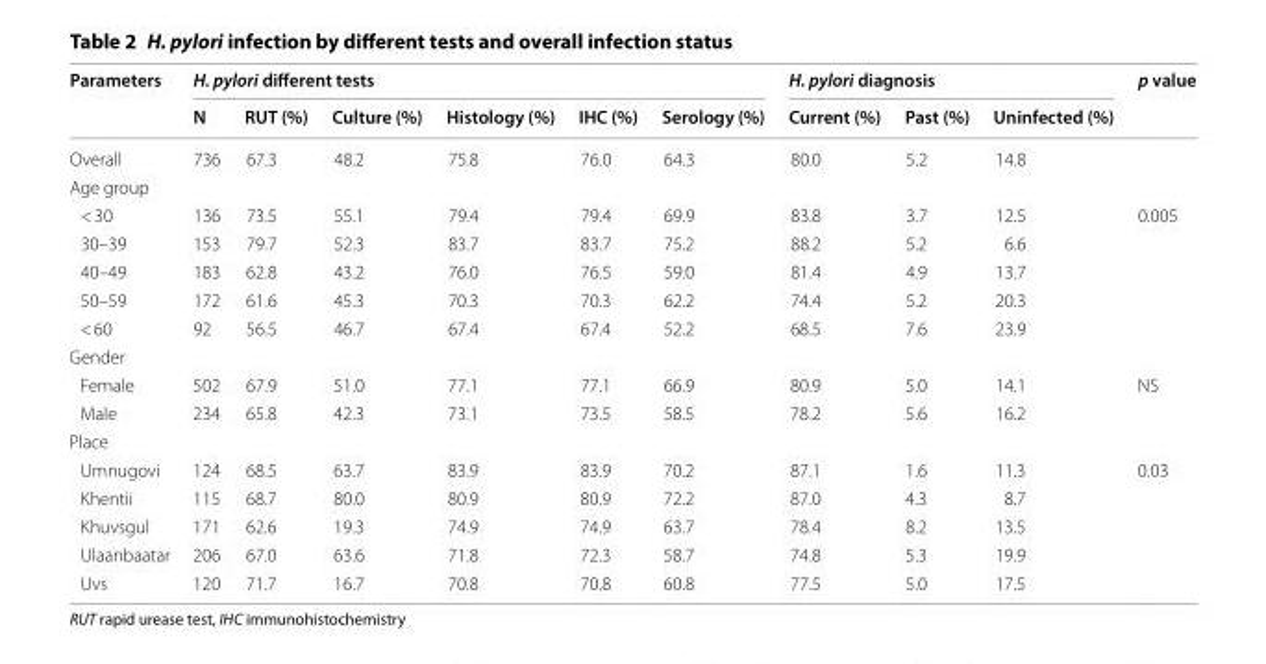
<table><thead><tr><td rowspan="2">Parameters</td><td colspan="6">H. pylori different tests</td><td colspan="3">H. pylori diagnosis</td><td rowspan="2">p value</td></tr><tr><td>N</td><td>RUT (%)</td><td>Culture (%)</td><td>Histology (%)</td><td>IHC (%)</td><td>Serology (%)</td><td>Current (%)</td><td>Past (%)</td><td>Uninfected (%)</td></tr></thead><tbody><tr><td>Overall</td><td>736</td><td>67.3</td><td>48.2</td><td>75.8</td><td>76.0</td><td>64.3</td><td>80.0</td><td>5.2</td><td>14.8</td><td></td></tr><tr><td colspan="11">Age group</td></tr><tr><td>&lt; 30</td><td>136</td><td>73.5</td><td>55.1</td><td>79.4</td><td>79.4</td><td>69.9</td><td>83.8</td><td>3.7</td><td>12.5</td><td rowspan="5">0.005</td></tr><tr><td>30–39</td><td>153</td><td>79.7</td><td>52.3</td><td>83.7</td><td>83.7</td><td>75.2</td><td>88.2</td><td>5.2</td><td>6.6</td></tr><tr><td>40–49</td><td>183</td><td>62.8</td><td>43.2</td><td>76.0</td><td>76.5</td><td>59.0</td><td>81.4</td><td>4.9</td><td>13.7</td></tr><tr><td>50–59</td><td>172</td><td>61.6</td><td>45.3</td><td>70.3</td><td>70.3</td><td>62.2</td><td>74.4</td><td>5.2</td><td>20.3</td></tr><tr><td>&lt; 60</td><td>92</td><td>56.5</td><td>46.7</td><td>67.4</td><td>67.4</td><td>52.2</td><td>68.5</td><td>7.6</td><td>23.9</td></tr><tr><td colspan="11">Gender</td></tr><tr><td>Female</td><td>502</td><td>67.9</td><td>51.0</td><td>77.1</td><td>77.1</td><td>66.9</td><td>80.9</td><td>5.0</td><td>14.1</td><td rowspan="2">NS</td></tr><tr><td>Male</td><td>234</td><td>65.8</td><td>42.3</td><td>73.1</td><td>73.5</td><td>58.5</td><td>78.2</td><td>5.6</td><td>16.2</td></tr><tr><td colspan="11">Place</td></tr><tr><td>Umnugovi</td><td>124</td><td>68.5</td><td>63.7</td><td>83.9</td><td>83.9</td><td>70.2</td><td>87.1</td><td>1.6</td><td>11.3</td><td rowspan="5">0.03</td></tr><tr><td>Khentii</td><td>115</td><td>68.7</td><td>80.0</td><td>80.9</td><td>80.9</td><td>72.2</td><td>87.0</td><td>4.3</td><td>8.7</td></tr><tr><td>Khuvsgul</td><td>171</td><td>62.6</td><td>19.3</td><td>74.9</td><td>74.9</td><td>63.7</td><td>78.4</td><td>8.2</td><td>13.5</td></tr><tr><td>Ulaanbaatar</td><td>206</td><td>67.0</td><td>63.6</td><td>71.8</td><td>72.3</td><td>58.7</td><td>74.8</td><td>5.3</td><td>19.9</td></tr><tr><td>Uvs</td><td>120</td><td>71.7</td><td>16.7</td><td>70.8</td><td>70.8</td><td>60.8</td><td>77.5</td><td>5.0</td><td>17.5</td></tr></tbody></table>